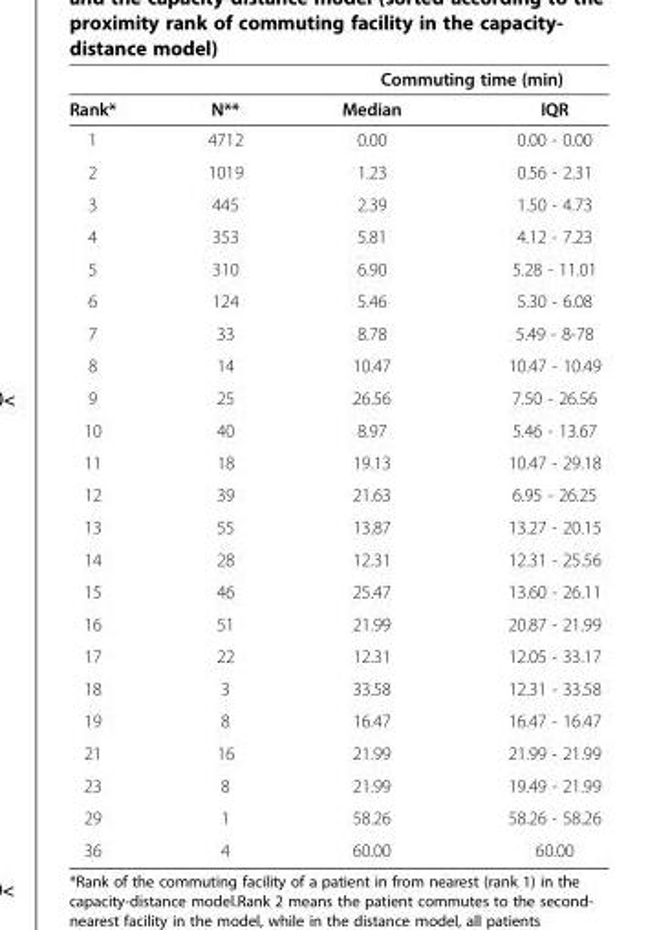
<table><thead><tr><td rowspan="2">Rank*</td><td rowspan="2">N**</td><td colspan="2">Commuting time (min)</td></tr><tr><td>Median</td><td>IQR</td></tr></thead><tbody><tr><td>1</td><td>4712</td><td>0.00</td><td>0.00 - 0.00</td></tr><tr><td>2</td><td>1019</td><td>1.23</td><td>0.56 - 2.31</td></tr><tr><td>3</td><td>445</td><td>2.39</td><td>1.50 - 4.73</td></tr><tr><td>4</td><td>353</td><td>5.81</td><td>4.12 - 7.23</td></tr><tr><td>5</td><td>310</td><td>6.90</td><td>5.28 - 11.01</td></tr><tr><td>6</td><td>124</td><td>5.46</td><td>5.30 - 6.08</td></tr><tr><td>7</td><td>33</td><td>8.78</td><td>5.49 - 8-78</td></tr><tr><td>8</td><td>14</td><td>10.47</td><td>10.47 - 10.49</td></tr><tr><td>9</td><td>25</td><td>26.56</td><td>7.50 - 26.56</td></tr><tr><td>10</td><td>40</td><td>8.97</td><td>5.46 - 13.67</td></tr><tr><td>11</td><td>18</td><td>19.13</td><td>10.47 - 29.18</td></tr><tr><td>12</td><td>39</td><td>21.63</td><td>6.95 - 26.25</td></tr><tr><td>13</td><td>55</td><td>13.87</td><td>13.27 - 20.15</td></tr><tr><td>14</td><td>28</td><td>12.31</td><td>12.31 - 25.56</td></tr><tr><td>15</td><td>46</td><td>25.47</td><td>13.60 - 26.11</td></tr><tr><td>16</td><td>51</td><td>21.99</td><td>20.87 - 21.99</td></tr><tr><td>17</td><td>22</td><td>12.31</td><td>12.05 - 33.17</td></tr><tr><td>18</td><td>3</td><td>33.58</td><td>12.31 - 33.58</td></tr><tr><td>19</td><td>8</td><td>16.47</td><td>16.47 - 16.47</td></tr><tr><td>21</td><td>16</td><td>21.99</td><td>21.99 - 21.99</td></tr><tr><td>23</td><td>8</td><td>21.99</td><td>19.49 - 21.99</td></tr><tr><td>29</td><td>1</td><td>58.26</td><td>58.26 - 58.26</td></tr><tr><td>36</td><td>4</td><td>60.00</td><td>60.00</td></tr></tbody></table>